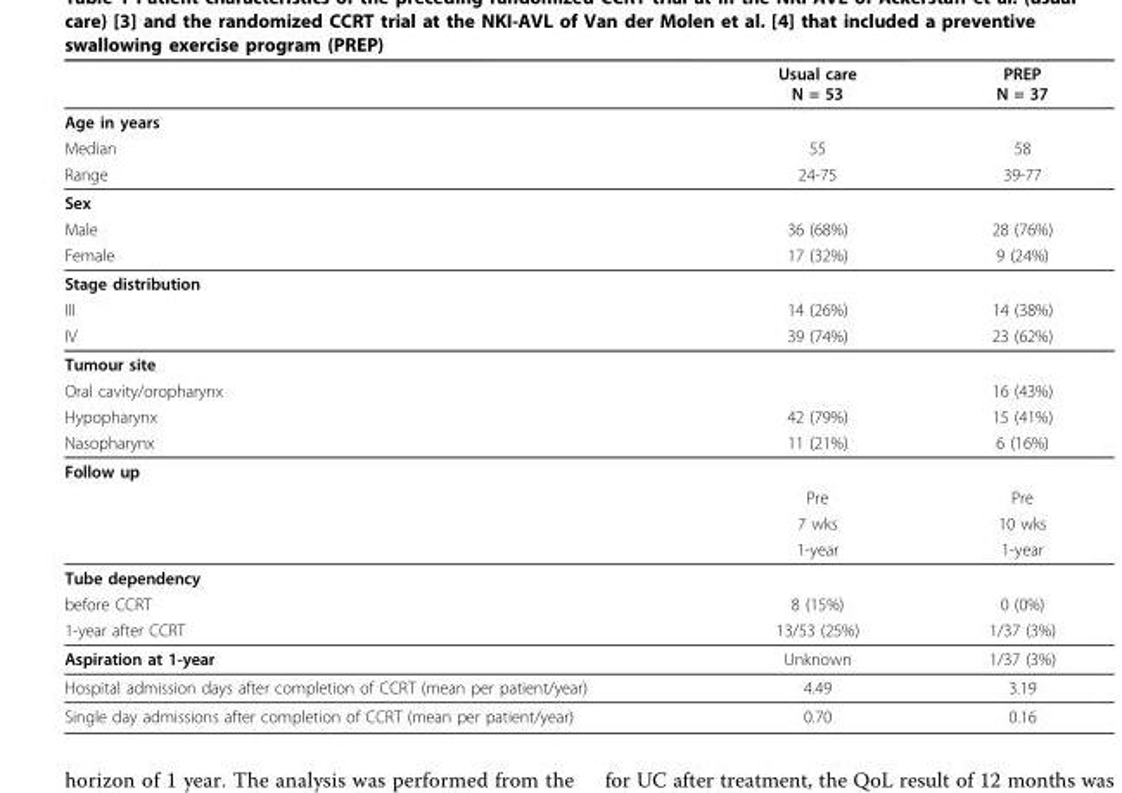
<table><thead><tr><td></td><td>Usual care N = 53</td><td>PREP N = 37</td></tr></thead><tbody><tr><td colspan="3">Age in years</td></tr><tr><td>Median</td><td>55</td><td>58</td></tr><tr><td>Range</td><td>24-75</td><td>39-77</td></tr><tr><td colspan="3">Sex</td></tr><tr><td>Male</td><td>36 (68%)</td><td>28 (76%)</td></tr><tr><td>Female</td><td>17 (32%)</td><td>9 (24%)</td></tr><tr><td colspan="3">Stage distribution</td></tr><tr><td>III</td><td>14 (26%)</td><td>14 (38%)</td></tr><tr><td>IV</td><td>39 (74%)</td><td>23 (62%)</td></tr><tr><td colspan="3">Tumour site</td></tr><tr><td>Oral cavity/oropharynx</td><td></td><td>16 (43%)</td></tr><tr><td>Hypopharynx</td><td>42 (79%)</td><td>15 (41%)</td></tr><tr><td>Nasopharynx</td><td>11 (21%)</td><td>6 (16%)</td></tr><tr><td colspan="3">Follow up</td></tr><tr><td></td><td>Pre</td><td>Pre</td></tr><tr><td></td><td>7 wks</td><td>10 wks</td></tr><tr><td></td><td>1-year</td><td>1-year</td></tr><tr><td colspan="3">Tube dependency</td></tr><tr><td>before CCRT</td><td>8 (15%)</td><td>0 (0%)</td></tr><tr><td>1-year after CCRT</td><td>13/53 (25%)</td><td>1/37 (3%)</td></tr><tr><td>Aspiration at 1-year</td><td>Unknown</td><td>1/37 (3%)</td></tr><tr><td>Hospital admission days after completion of CCRT (mean per patient/year)</td><td>4.49</td><td>3.19</td></tr><tr><td>Single day admissions after completion of CCRT (mean per patient/year)</td><td>0.70</td><td>0.16</td></tr></tbody></table>